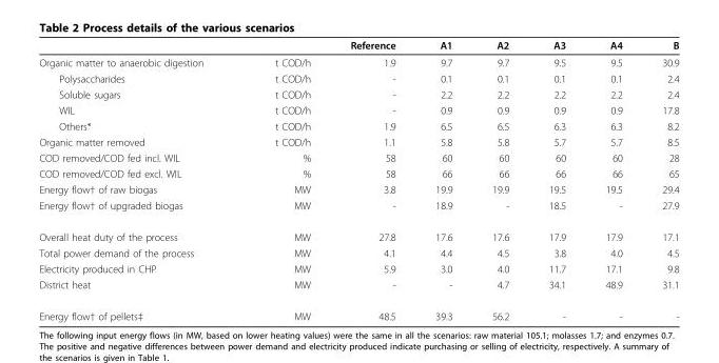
<table><thead><tr><td></td><td></td><td>Reference</td><td>A1</td><td>A2</td><td>A3</td><td>A4</td><td>B</td></tr></thead><tbody><tr><td>Organic matter to anaerobic digestion</td><td>t COD/h</td><td>1.9</td><td>9.7</td><td>9.7</td><td>9.5</td><td>9.5</td><td>30.9</td></tr><tr><td>Polysaccharides</td><td>t COD/h</td><td>-</td><td>0.1</td><td>0.1</td><td>0.1</td><td>0.1</td><td>2.4</td></tr><tr><td>Soluble sugars</td><td>t COD/h</td><td>-</td><td>2.2</td><td>2.2</td><td>2.2</td><td>2.2</td><td>2.4</td></tr><tr><td>WIL</td><td>t COD/h</td><td>-</td><td>0.9</td><td>0.9</td><td>0.9</td><td>0.9</td><td>17.8</td></tr><tr><td>Others*</td><td>t COD/h</td><td>1.9</td><td>6.5</td><td>6.5</td><td>6.3</td><td>6.3</td><td>8.2</td></tr><tr><td>Organic matter removed</td><td>t COD/h</td><td>1.1</td><td>5.8</td><td>5.8</td><td>5.7</td><td>5.7</td><td>8.5</td></tr><tr><td>COD removed/COD fed incl. WIL</td><td>%</td><td>58</td><td>60</td><td>60</td><td>60</td><td>60</td><td>28</td></tr><tr><td>COD removed/COD fed excl. WIL</td><td>%</td><td>58</td><td>66</td><td>66</td><td>66</td><td>66</td><td>65</td></tr><tr><td>Energy flow† of raw biogas</td><td>MW</td><td>3.8</td><td>19.9</td><td>19.9</td><td>19.5</td><td>19.5</td><td>29.4</td></tr><tr><td>Energy flow† of upgraded biogas</td><td>MW</td><td>-</td><td>18.9</td><td>-</td><td>18.5</td><td>-</td><td>27.9</td></tr><tr><td>Overall heat duty of the process</td><td>MW</td><td>27.8</td><td>17.6</td><td>17.6</td><td>17.9</td><td>17.9</td><td>17.1</td></tr><tr><td>Total power demand of the process</td><td>MW</td><td>4.1</td><td>4.4</td><td>4.5</td><td>3.8</td><td>4.0</td><td>4.5</td></tr><tr><td>Electricity produced in CHP</td><td>MW</td><td>5.9</td><td>3.0</td><td>4.0</td><td>11.7</td><td>17.1</td><td>9.8</td></tr><tr><td>District heat</td><td>MW</td><td>-</td><td>-</td><td>4.7</td><td>34.1</td><td>48.9</td><td>31.1</td></tr><tr><td>Energy flow† of pellets‡</td><td>MW</td><td>48.5</td><td>39.3</td><td>56.2</td><td>-</td><td>-</td><td>-</td></tr></tbody></table>